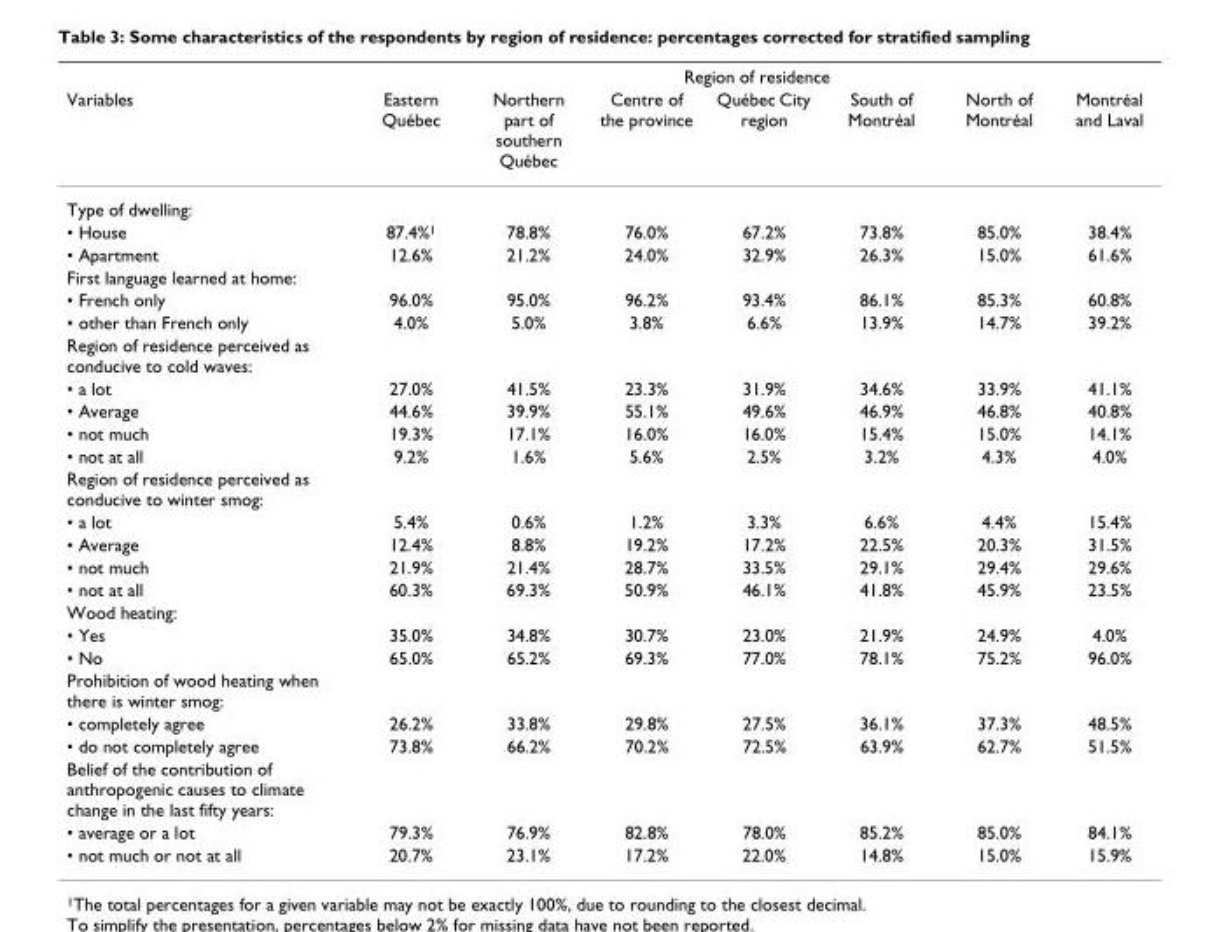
<table><thead><tr><td rowspan="2">Variables</td><td colspan="7">Region of residence</td></tr><tr><td>Eastern Québec</td><td>Northern part of southern Québec</td><td>Centre of the province</td><td>Québec City region</td><td>South of Montréal</td><td>North of Montréal</td><td>Montréal and Laval</td></tr></thead><tbody><tr><td colspan="8">Type of dwelling:</td></tr><tr><td>• House</td><td>87.4%<sup>1</sup></td><td>78.8%</td><td>76.0%</td><td>67.2%</td><td>73.8%</td><td>85.0%</td><td>38.4%</td></tr><tr><td>• Apartment</td><td>12.6%</td><td>21.2%</td><td>24.0%</td><td>32.9%</td><td>26.3%</td><td>15.0%</td><td>61.6%</td></tr><tr><td colspan="8">First language learned at home:</td></tr><tr><td>• French only</td><td>96.0%</td><td>95.0%</td><td>96.2%</td><td>93.4%</td><td>86.1%</td><td>85.3%</td><td>60.8%</td></tr><tr><td>• other than French only</td><td>4.0%</td><td>5.0%</td><td>3.8%</td><td>6.6%</td><td>13.9%</td><td>14.7%</td><td>39.2%</td></tr><tr><td colspan="8">Region of residence perceived as conducive to cold waves:</td></tr><tr><td>• a lot</td><td>27.0%</td><td>41.5%</td><td>23.3%</td><td>31.9%</td><td>34.6%</td><td>33.9%</td><td>41.1%</td></tr><tr><td>• Average</td><td>44.6%</td><td>39.9%</td><td>55.1%</td><td>49.6%</td><td>46.9%</td><td>46.8%</td><td>40.8%</td></tr><tr><td>• not much</td><td>19.3%</td><td>17.1%</td><td>16.0%</td><td>16.0%</td><td>15.4%</td><td>15.0%</td><td>14.1%</td></tr><tr><td>• not at all</td><td>9.2%</td><td>1.6%</td><td>5.6%</td><td>2.5%</td><td>3.2%</td><td>4.3%</td><td>4.0%</td></tr><tr><td colspan="8">Region of residence perceived as conducive to winter smog:</td></tr><tr><td>• a lot</td><td>5.4%</td><td>0.6%</td><td>1.2%</td><td>3.3%</td><td>6.6%</td><td>4.4%</td><td>15.4%</td></tr><tr><td>• Average</td><td>12.4%</td><td>8.8%</td><td>19.2%</td><td>17.2%</td><td>22.5%</td><td>20.3%</td><td>31.5%</td></tr><tr><td>• not much</td><td>21.9%</td><td>21.4%</td><td>28.7%</td><td>33.5%</td><td>29.1%</td><td>29.4%</td><td>29.6%</td></tr><tr><td>• not at all</td><td>60.3%</td><td>69.3%</td><td>50.9%</td><td>46.1%</td><td>41.8%</td><td>45.9%</td><td>23.5%</td></tr><tr><td colspan="8">Wood heating:</td></tr><tr><td>• Yes</td><td>35.0%</td><td>34.8%</td><td>30.7%</td><td>23.0%</td><td>21.9%</td><td>24.9%</td><td>4.0%</td></tr><tr><td>• No</td><td>65.0%</td><td>65.2%</td><td>69.3%</td><td>77.0%</td><td>78.1%</td><td>75.2%</td><td>96.0%</td></tr><tr><td colspan="8">Prohibition of wood heating when there is winter smog:</td></tr><tr><td>• completely agree</td><td>26.2%</td><td>33.8%</td><td>29.8%</td><td>27.5%</td><td>36.1%</td><td>37.3%</td><td>48.5%</td></tr><tr><td>• do not completely agree</td><td>73.8%</td><td>66.2%</td><td>70.2%</td><td>72.5%</td><td>63.9%</td><td>62.7%</td><td>51.5%</td></tr><tr><td colspan="8">Belief of the contribution of anthropogenic causes to climate change in the last fifty years:</td></tr><tr><td>• average or a lot</td><td>79.3%</td><td>76.9%</td><td>82.8%</td><td>78.0%</td><td>85.2%</td><td>85.0%</td><td>84.1%</td></tr><tr><td>• not much or not at all</td><td>20.7%</td><td>23.1%</td><td>17.2%</td><td>22.0%</td><td>14.8%</td><td>15.0%</td><td>15.9%</td></tr></tbody></table>